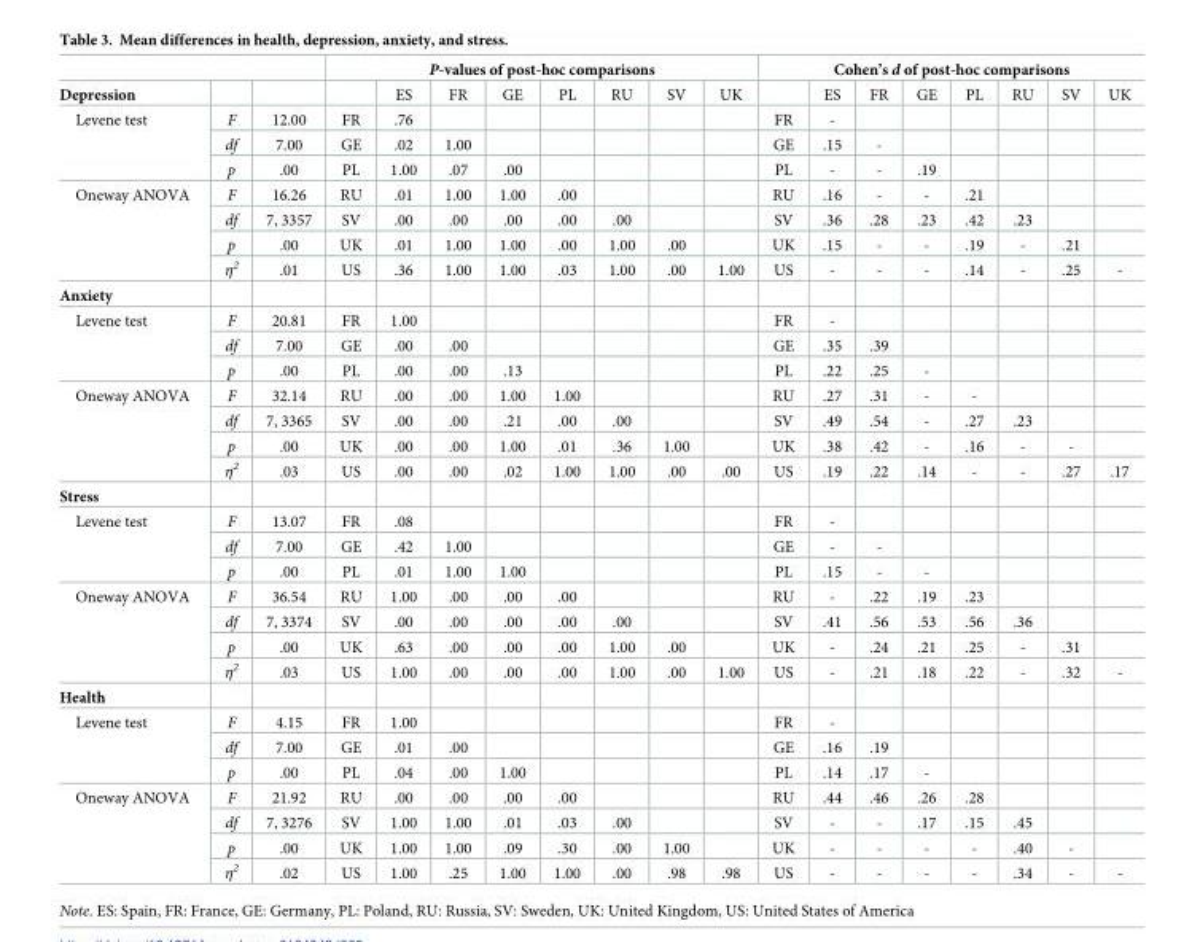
<table><thead><tr><td rowspan="2">Depression</td><td rowspan="2"></td><td rowspan="2"></td><td colspan="8">P-values of post-hoc comparisons</td><td colspan="8">Cohen’s d of post-hoc comparisons</td></tr><tr><td></td><td>ES</td><td>FR</td><td>GE</td><td>PL</td><td>RU</td><td>SV</td><td>UK</td><td></td><td>ES</td><td>FR</td><td>GE</td><td>PL</td><td>RU</td><td>SV</td><td>UK</td></tr></thead><tbody><tr><td rowspan="3">Levene test</td><td>F</td><td>12.00</td><td>FR</td><td>.76</td><td></td><td></td><td></td><td></td><td></td><td></td><td>FR</td><td>-</td><td></td><td></td><td></td><td></td><td></td><td></td></tr><tr><td>df</td><td>7.00</td><td>GE</td><td>.02</td><td>1.00</td><td></td><td></td><td></td><td></td><td></td><td>GE</td><td>.15</td><td>-</td><td></td><td></td><td></td><td></td><td></td></tr><tr><td>p</td><td>.00</td><td>PL</td><td>1.00</td><td>.07</td><td>.00</td><td></td><td></td><td></td><td></td><td>PL</td><td>-</td><td>-</td><td>.19</td><td></td><td></td><td></td><td></td></tr><tr><td rowspan="4">Oneway ANOVA</td><td>F</td><td>16.26</td><td>RU</td><td>.01</td><td>1.00</td><td>1.00</td><td>.00</td><td></td><td></td><td></td><td>RU</td><td>.16</td><td>-</td><td>-</td><td>.21</td><td></td><td></td><td></td></tr><tr><td>df</td><td>7, 3357</td><td>SV</td><td>.00</td><td>.00</td><td>.00</td><td>.00</td><td>.00</td><td></td><td></td><td>SV</td><td>.36</td><td>.28</td><td>.23</td><td>.42</td><td>.23</td><td></td><td></td></tr><tr><td>p</td><td>.00</td><td>UK</td><td>.01</td><td>1.00</td><td>1.00</td><td>.00</td><td>1.00</td><td>.00</td><td></td><td>UK</td><td>.15</td><td>-</td><td>-</td><td>.19</td><td>-</td><td>.21</td><td></td></tr><tr><td>η<sup>2</sup></td><td>.01</td><td>US</td><td>.36</td><td>1.00</td><td>1.00</td><td>.03</td><td>1.00</td><td>.00</td><td>1.00</td><td>US</td><td>-</td><td>-</td><td>-</td><td>.14</td><td>-</td><td>.25</td><td>-</td></tr><tr><td colspan="19">Anxiety</td></tr><tr><td rowspan="3">Levene test</td><td>F</td><td>20.81</td><td>FR</td><td>1.00</td><td></td><td></td><td></td><td></td><td></td><td></td><td>FR</td><td>-</td><td></td><td></td><td></td><td></td><td></td><td></td></tr><tr><td>df</td><td>7.00</td><td>GE</td><td>.00</td><td>.00</td><td></td><td></td><td></td><td></td><td></td><td>GE</td><td>.35</td><td>.39</td><td></td><td></td><td></td><td></td><td></td></tr><tr><td>p</td><td>.00</td><td>PL</td><td>.00</td><td>.00</td><td>.13</td><td></td><td></td><td></td><td></td><td>PL</td><td>.22</td><td>.25</td><td>-</td><td></td><td></td><td></td><td></td></tr><tr><td rowspan="4">Oneway ANOVA</td><td>F</td><td>32.14</td><td>RU</td><td>.00</td><td>.00</td><td>1.00</td><td>1.00</td><td></td><td></td><td></td><td>RU</td><td>.27</td><td>.31</td><td>-</td><td>-</td><td></td><td></td><td></td></tr><tr><td>df</td><td>7, 3365</td><td>SV</td><td>.00</td><td>.00</td><td>.21</td><td>.00</td><td>.00</td><td></td><td></td><td>SV</td><td>.49</td><td>.54</td><td>-</td><td>.27</td><td>.23</td><td></td><td></td></tr><tr><td>p</td><td>.00</td><td>UK</td><td>.00</td><td>.00</td><td>1.00</td><td>.01</td><td>.36</td><td>1.00</td><td></td><td>UK</td><td>.38</td><td>.42</td><td>-</td><td>.16</td><td>-</td><td>-</td><td></td></tr><tr><td>η<sup>2</sup></td><td>.03</td><td>US</td><td>.00</td><td>.00</td><td>.02</td><td>1.00</td><td>1.00</td><td>.00</td><td>.00</td><td>US</td><td>.19</td><td>.22</td><td>.14</td><td>-</td><td>-</td><td>.27</td><td>.17</td></tr><tr><td colspan="19">Stress</td></tr><tr><td rowspan="3">Levene test</td><td>F</td><td>13.07</td><td>FR</td><td>.08</td><td></td><td></td><td></td><td></td><td></td><td></td><td>FR</td><td>-</td><td></td><td></td><td></td><td></td><td></td><td></td></tr><tr><td>df</td><td>7.00</td><td>GE</td><td>.42</td><td>1.00</td><td></td><td></td><td></td><td></td><td></td><td>GE</td><td>-</td><td>-</td><td></td><td></td><td></td><td></td><td></td></tr><tr><td>p</td><td>.00</td><td>PL</td><td>.01</td><td>1.00</td><td>1.00</td><td></td><td></td><td></td><td></td><td>PL</td><td>.15</td><td>-</td><td>-</td><td></td><td></td><td></td><td></td></tr><tr><td rowspan="4">Oneway ANOVA</td><td>F</td><td>36.54</td><td>RU</td><td>1.00</td><td>.00</td><td>.00</td><td>.00</td><td></td><td></td><td></td><td>RU</td><td>-</td><td>.22</td><td>.19</td><td>.23</td><td></td><td></td><td></td></tr><tr><td>df</td><td>7, 3374</td><td>SV</td><td>.00</td><td>.00</td><td>.00</td><td>.00</td><td>.00</td><td></td><td></td><td>SV</td><td>.41</td><td>.56</td><td>.53</td><td>.56</td><td>.36</td><td></td><td></td></tr><tr><td>p</td><td>.00</td><td>UK</td><td>.63</td><td>.00</td><td>.00</td><td>.00</td><td>1.00</td><td>.00</td><td></td><td>UK</td><td>-</td><td>.24</td><td>.21</td><td>.25</td><td>-</td><td>.31</td><td></td></tr><tr><td>η<sup>2</sup></td><td>.03</td><td>US</td><td>1.00</td><td>.00</td><td>.00</td><td>.00</td><td>1.00</td><td>.00</td><td>1.00</td><td>US</td><td>-</td><td>.21</td><td>.18</td><td>.22</td><td>-</td><td>.32</td><td>-</td></tr><tr><td colspan="19">Health</td></tr><tr><td rowspan="3">Levene test</td><td>F</td><td>4.15</td><td>FR</td><td>1.00</td><td></td><td></td><td></td><td></td><td></td><td></td><td>FR</td><td>-</td><td></td><td></td><td></td><td></td><td></td><td></td></tr><tr><td>df</td><td>7.00</td><td>GE</td><td>.01</td><td>.00</td><td></td><td></td><td></td><td></td><td></td><td>GE</td><td>.16</td><td>.19</td><td></td><td></td><td></td><td></td><td></td></tr><tr><td>p</td><td>.00</td><td>PL</td><td>.04</td><td>.00</td><td>1.00</td><td></td><td></td><td></td><td></td><td>PL</td><td>.14</td><td>.17</td><td>-</td><td></td><td></td><td></td><td></td></tr><tr><td rowspan="4">Oneway ANOVA</td><td>F</td><td>21.92</td><td>RU</td><td>.00</td><td>.00</td><td>.00</td><td>.00</td><td></td><td></td><td></td><td>RU</td><td>.44</td><td>.46</td><td>.26</td><td>.28</td><td></td><td></td><td></td></tr><tr><td>df</td><td>7, 3276</td><td>SV</td><td>1.00</td><td>1.00</td><td>.01</td><td>.03</td><td>.00</td><td></td><td></td><td>SV</td><td>-</td><td>-</td><td>.17</td><td>.15</td><td>.45</td><td></td><td></td></tr><tr><td>p</td><td>.00</td><td>UK</td><td>1.00</td><td>1.00</td><td>.09</td><td>.30</td><td>.00</td><td>1.00</td><td></td><td>UK</td><td>-</td><td>-</td><td>-</td><td>-</td><td>.40</td><td>-</td><td></td></tr><tr><td>η<sup>2</sup></td><td>.02</td><td>US</td><td>1.00</td><td>.25</td><td>1.00</td><td>1.00</td><td>.00</td><td>.98</td><td>.98</td><td>US</td><td>-</td><td>-</td><td>-</td><td>-</td><td>.34</td><td>-</td><td>-</td></tr></tbody></table>